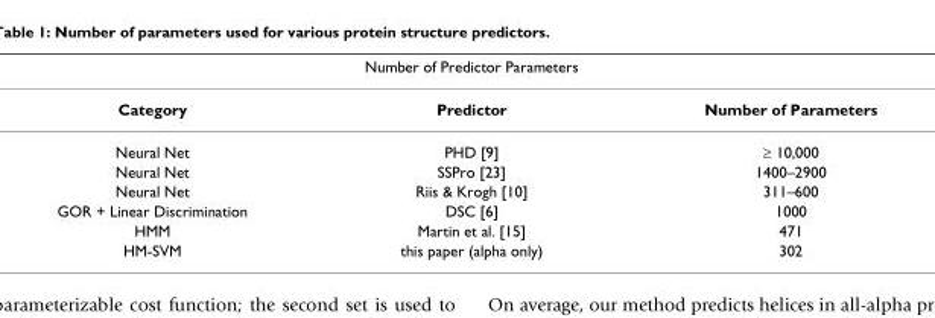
<table><thead><tr><td colspan="3">Number of Predictor Parameters</td></tr><tr><td>Category</td><td>Predictor</td><td>Number of Parameters</td></tr></thead><tbody><tr><td>Neural Net</td><td>PHD [9]</td><td>≥ 10,000</td></tr><tr><td>Neural Net</td><td>SSPro [23]</td><td>1400–2900</td></tr><tr><td>Neural Net</td><td>Riis &amp; Krogh [10]</td><td>311–600</td></tr><tr><td>GOR + Linear Discrimination</td><td>DSC [6]</td><td>1000</td></tr><tr><td>HMM</td><td>Martin et al. [15]</td><td>471</td></tr><tr><td>HM-SVM</td><td>this paper (alpha only)</td><td>302</td></tr></tbody></table>